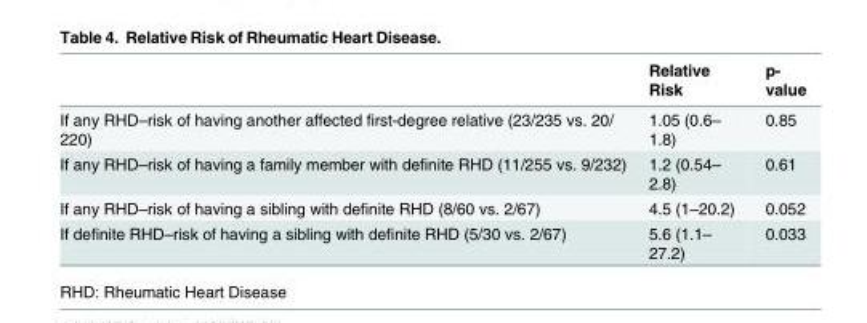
<table><thead><tr><td></td><td>Relative Risk</td><td>p- value</td></tr></thead><tbody><tr><td>If any RHD–risk of having another affected first-degree relative (23/235 vs. 20/ 220)</td><td>1.05 (0.6– 1.8)</td><td>0.85</td></tr><tr><td>If any RHD–risk of having a family member with definite RHD (11/255 vs. 9/232)</td><td>1.2 (0.54– 2.8)</td><td>0.61</td></tr><tr><td>If any RHD–risk of having a sibling with definite RHD (8/60 vs. 2/67)</td><td>4.5 (1–20.2)</td><td>0.052</td></tr><tr><td>If definite RHD–risk of having a sibling with definite RHD (5/30 vs. 2/67)</td><td>5.6 (1.1– 27.2)</td><td>0.033</td></tr></tbody></table>